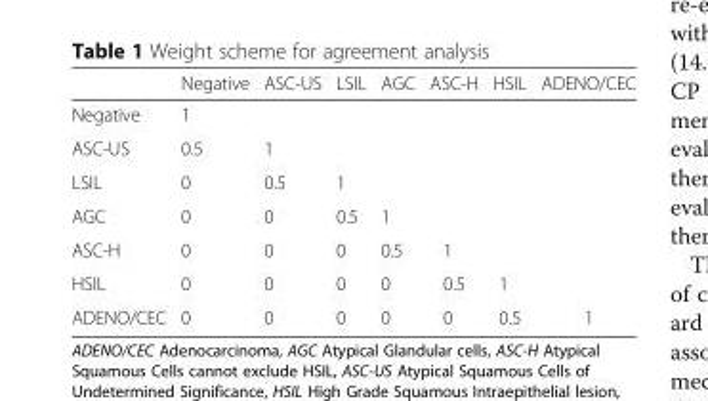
<table><thead><tr><td></td><td>Negative</td><td>ASC-US</td><td>LSIL</td><td>AGC</td><td>ASC-H</td><td>HSIL</td><td>ADENO/CEC</td></tr></thead><tbody><tr><td>Negative</td><td>1</td><td></td><td></td><td></td><td></td><td></td><td></td></tr><tr><td>ASC-US</td><td>0.5</td><td>1</td><td></td><td></td><td></td><td></td><td></td></tr><tr><td>LSIL</td><td>0</td><td>0.5</td><td>1</td><td></td><td></td><td></td><td></td></tr><tr><td>AGC</td><td>0</td><td>0</td><td>0.5</td><td>1</td><td></td><td></td><td></td></tr><tr><td>ASC-H</td><td>0</td><td>0</td><td>0</td><td>0.5</td><td>1</td><td></td><td></td></tr><tr><td>HSIL</td><td>0</td><td>0</td><td>0</td><td>0</td><td>0.5</td><td>1</td><td></td></tr><tr><td>ADENO/CEC</td><td>0</td><td>0</td><td>0</td><td>0</td><td>0</td><td>0.5</td><td>1</td></tr></tbody></table>